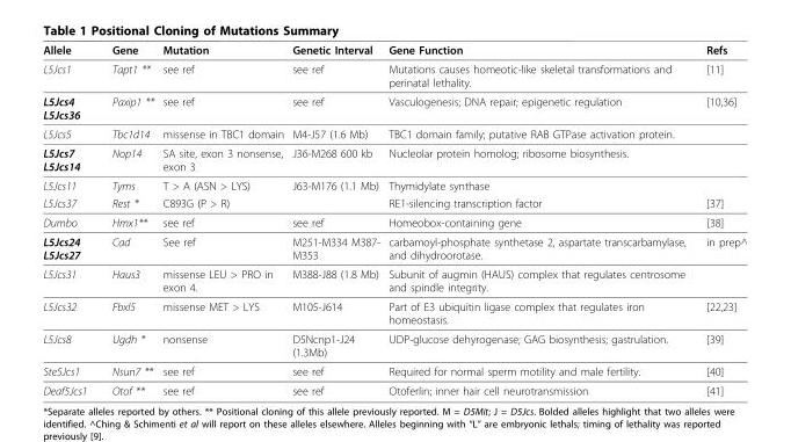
<table><thead><tr><td>Allele</td><td>Gene</td><td>Mutation</td><td>Genetic Interval</td><td>Gene Function</td><td>Refs</td></tr></thead><tbody><tr><td>L5Jcs1</td><td>Tapt1 **</td><td>see ref</td><td>see ref</td><td>Mutations causes homeotic-like skeletal transformations and perinatal lethality.</td><td>[11]</td></tr><tr><td>L5Jcs4 L5Jcs36</td><td>Paxip1 **</td><td>see ref</td><td>see ref</td><td>Vasculogenesis; DNA repair; epigenetic regulation</td><td>[10,36]</td></tr><tr><td>L5Jcs5</td><td>Tbc1d14</td><td>missense in TBC1 domain</td><td>M4-J57 (1.6 Mb)</td><td>TBC1 domain family; putative RAB GTPase activation protein.</td><td></td></tr><tr><td>L5Jcs7 L5Jcs14</td><td>Nop14</td><td>SA site, exon 3 nonsense, exon 3</td><td>J36-M268 600 kb</td><td>Nucleolar protein homolog; ribosome biosynthesis.</td><td></td></tr><tr><td>L5Jcs11</td><td>Tyms</td><td>T &gt; A (ASN &gt; LYS)</td><td>J63-M176 (1.1 Mb)</td><td>Thymidylate synthase</td><td></td></tr><tr><td>L5Jcs37</td><td>Rest *</td><td>C893G (P &gt; R)</td><td></td><td>RE1-silencing transcription factor</td><td>[37]</td></tr><tr><td>Dumbo</td><td>Hmx1**</td><td>see ref</td><td>see ref</td><td>Homeobox-containing gene</td><td>[38]</td></tr><tr><td>L5Jcs24 L5Jcs27</td><td>Cad</td><td>See ref</td><td>M251-M334 M387- M353</td><td>carbamoyl-phosphate synthetase 2, aspartate transcarbamylase, and dihydroorotase.</td><td>in prep^</td></tr><tr><td>L5Jcs31</td><td>Haus3</td><td>missense LEU &gt; PRO in exon 4.</td><td>M388-J88 (1.8 Mb)</td><td>Subunit of augmin (HAUS) complex that regulates centrosome and spindle integrity.</td><td></td></tr><tr><td>L5Jcs32</td><td>Fbxl5</td><td>missense MET &gt; LYS</td><td>M105-J614</td><td>Part of E3 ubiquitin ligase complex that regulates iron homeostasis.</td><td>[22,23]</td></tr><tr><td>L5Jcs8</td><td>Ugdh *</td><td>nonsense</td><td>D5Ncnp1-J24 (1.3Mb)</td><td>UDP-glucose dehyrogenase; GAG biosynthesis; gastrulation.</td><td>[39]</td></tr><tr><td>Ste5Jcs1</td><td>Nsun7 **</td><td>see ref</td><td>see ref</td><td>Required for normal sperm motility and male fertility.</td><td>[40]</td></tr><tr><td>Deaf5Jcs1</td><td>Otof **</td><td>see ref</td><td>see ref</td><td>Otoferlin; inner hair cell neurotransmission</td><td>[41]</td></tr></tbody></table>